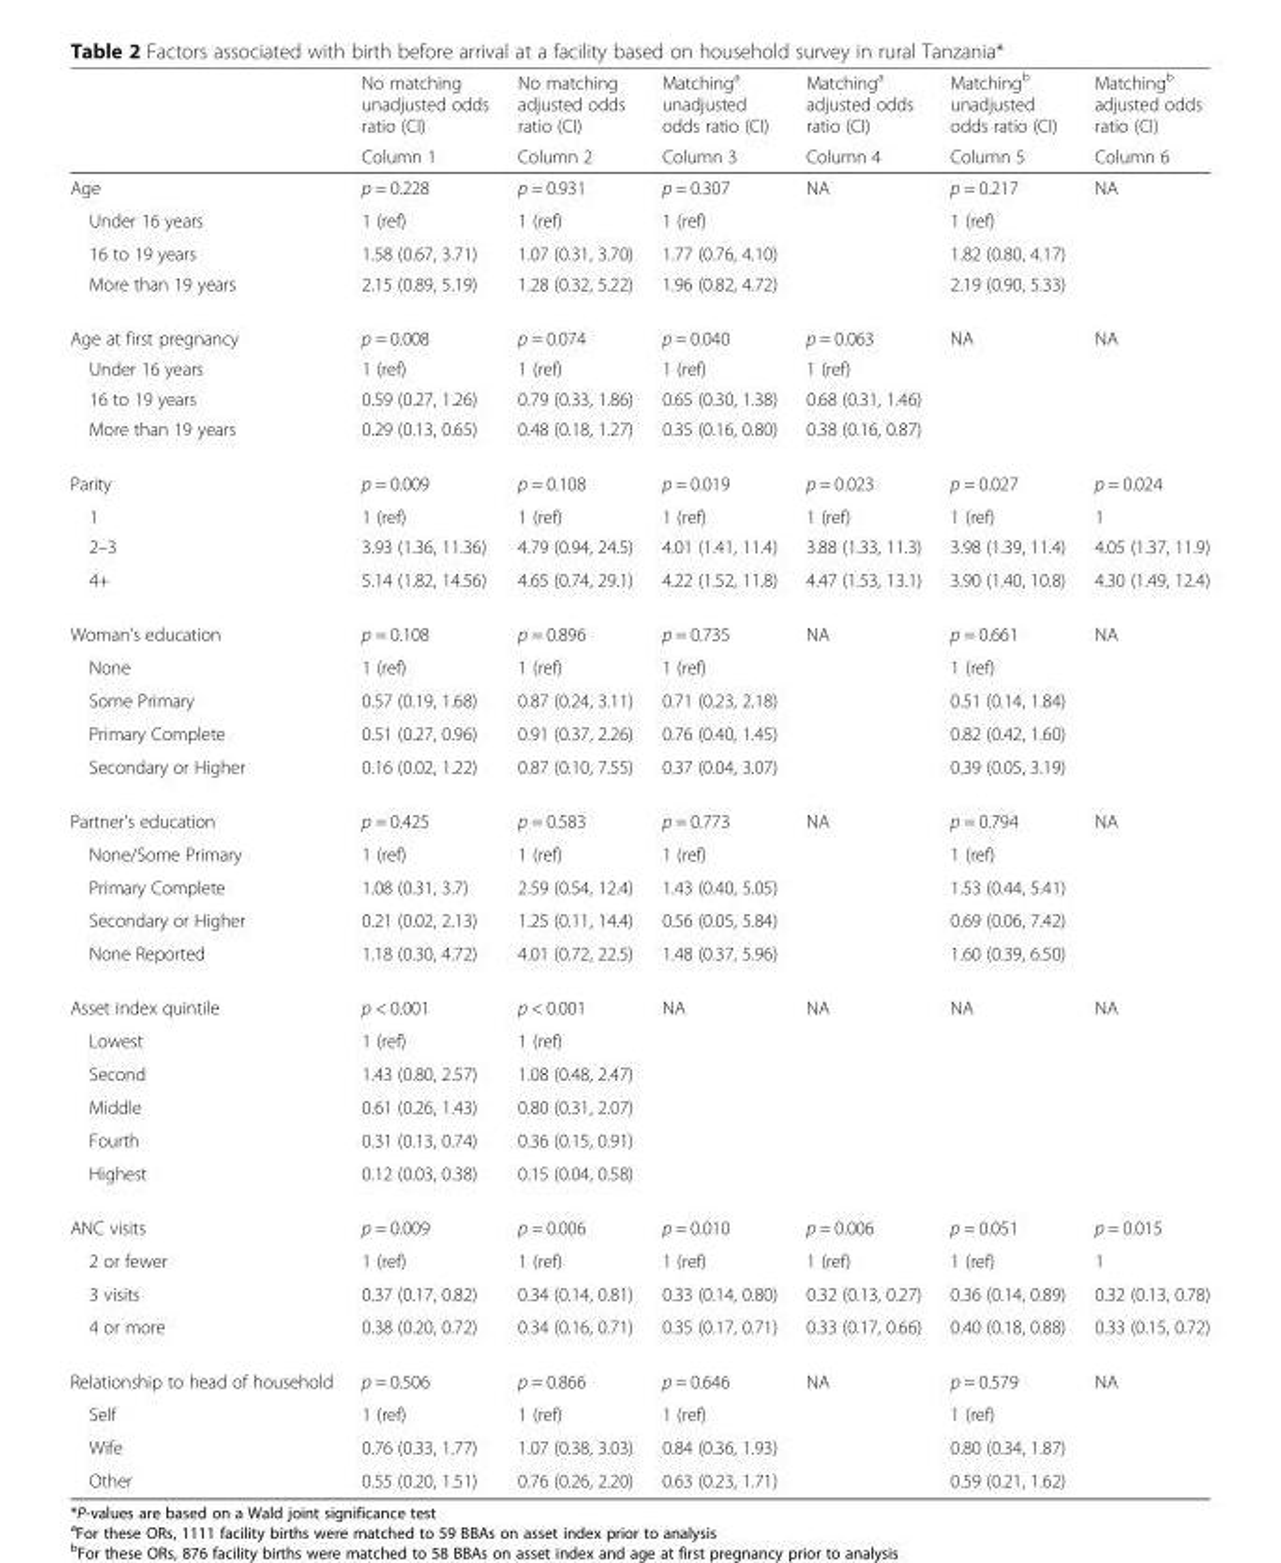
<table><thead><tr><td rowspan="2"></td><td rowspan="2">No matching unadjusted odds ratio (CI) Column 1</td><td rowspan="2">No matching adjusted odds ratio (CI) Column 2</td><td rowspan="2">Matching<sup>a</sup> unadjusted odds ratio (CI) Column 3</td><td rowspan="2">Matching<sup>a</sup> adjusted odds ratio (CI) Column 4</td><td rowspan="2">Matching<sup>b</sup> unadjusted odds ratio (CI) Column 5</td><td rowspan="2">Matching<sup>b</sup> adjusted odds ratio (CI) Column 6</td></tr><tr></tr></thead><tbody><tr><td>Age</td><td>p = 0.228</td><td>p = 0.931</td><td>p = 0.307</td><td>NA</td><td>p = 0.217</td><td>NA</td></tr><tr><td>Under 16 years</td><td>1 (ref)</td><td>1 (ref)</td><td>1 (ref)</td><td></td><td>1 (ref)</td><td></td></tr><tr><td>16 to 19 years</td><td>1.58 (0.67, 3.71)</td><td>1.07 (0.31, 3.70)</td><td>1.77 (0.76, 4.10)</td><td></td><td>1.82 (0.80, 4.17)</td><td></td></tr><tr><td>More than 19 years</td><td>2.15 (0.89, 5.19)</td><td>1.28 (0.32, 5.22)</td><td>1.96 (0.82, 4.72)</td><td></td><td>2.19 (0.90, 5.33)</td><td></td></tr><tr><td>Age at first pregnancy</td><td>p = 0.008</td><td>p = 0.074</td><td>p = 0.040</td><td>p = 0.063</td><td>NA</td><td>NA</td></tr><tr><td>Under 16 years</td><td>1 (ref)</td><td>1 (ref)</td><td>1 (ref)</td><td>1 (ref)</td><td></td><td></td></tr><tr><td>16 to 19 years</td><td>0.59 (0.27, 1.26)</td><td>0.79 (0.33, 1.86)</td><td>0.65 (0.30, 1.38)</td><td>0.68 (0.31, 1.46)</td><td></td><td></td></tr><tr><td>More than 19 years</td><td>0.29 (0.13, 0.65)</td><td>0.48 (0.18, 1.27)</td><td>0.35 (0.16, 0.80)</td><td>0.38 (0.16, 0.87)</td><td></td><td></td></tr><tr><td>Parity</td><td>p = 0.009</td><td>p = 0.108</td><td>p = 0.019</td><td>p = 0.023</td><td>p = 0.027</td><td>p = 0.024</td></tr><tr><td>1</td><td>1 (ref)</td><td>1 (ref)</td><td>1 (ref)</td><td>1 (ref)</td><td>1 (ref)</td><td>1</td></tr><tr><td>2–3</td><td>3.93 (1.36, 11.36)</td><td>4.79 (0.94, 24.5)</td><td>4.01 (1.41, 11.4)</td><td>3.88 (1.33, 11.3)</td><td>3.98 (1.39, 11.4)</td><td>4.05 (1.37, 11.9)</td></tr><tr><td>4+</td><td>5.14 (1.82, 14.56)</td><td>4.65 (0.74, 29.1)</td><td>4.22 (1.52, 11.8)</td><td>4.47 (1.53, 13.1)</td><td>3.90 (1.40, 10.8)</td><td>4.30 (1.49, 12.4)</td></tr><tr><td>Woman&#x27;s education</td><td>p = 0.108</td><td>p = 0.896</td><td>p = 0.735</td><td>NA</td><td>p = 0.661</td><td>NA</td></tr><tr><td>None</td><td>1 (ref)</td><td>1 (ref)</td><td>1 (ref)</td><td></td><td>1 (ref)</td><td></td></tr><tr><td>Some Primary</td><td>0.57 (0.19, 1.68)</td><td>0.87 (0.24, 3.11)</td><td>0.71 (0.23, 2.18)</td><td></td><td>0.51 (0.14, 1.84)</td><td></td></tr><tr><td>Primary Complete</td><td>0.51 (0.27, 0.96)</td><td>0.91 (0.37, 2.26)</td><td>0.76 (0.40, 1.45)</td><td></td><td>0.82 (0.42, 1.60)</td><td></td></tr><tr><td>Secondary or Higher</td><td>0.16 (0.02, 1.22)</td><td>0.87 (0.10, 7.55)</td><td>0.37 (0.04, 3.07)</td><td></td><td>0.39 (0.05, 3.19)</td><td></td></tr><tr><td>Partner&#x27;s education</td><td>p = 0.425</td><td>p = 0.583</td><td>p = 0.773</td><td>NA</td><td>p = 0.794</td><td>NA</td></tr><tr><td>None/Some Primary</td><td>1 (ref)</td><td>1 (ref)</td><td>1 (ref)</td><td></td><td>1 (ref)</td><td></td></tr><tr><td>Primary Complete</td><td>1.08 (0.31, 3.7)</td><td>2.59 (0.54, 12.4)</td><td>1.43 (0.40, 5.05)</td><td></td><td>1.53 (0.44, 5.41)</td><td></td></tr><tr><td>Secondary or Higher</td><td>0.21 (0.02, 2.13)</td><td>1.25 (0.11, 14.4)</td><td>0.56 (0.05, 5.84)</td><td></td><td>0.69 (0.06, 7.42)</td><td></td></tr><tr><td>None Reported</td><td>1.18 (0.30, 4.72)</td><td>4.01 (0.72, 22.5)</td><td>1.48 (0.37, 5.96)</td><td></td><td>1.60 (0.39, 6.50)</td><td></td></tr><tr><td>Asset index quintile</td><td>p &lt; 0.001</td><td>p &lt; 0.001</td><td>NA</td><td>NA</td><td>NA</td><td>NA</td></tr><tr><td>Lowest</td><td>1 (ref)</td><td>1 (ref)</td><td></td><td></td><td></td><td></td></tr><tr><td>Second</td><td>1.43 (0.80, 2.57)</td><td>1.08 (0.48, 2.47)</td><td></td><td></td><td></td><td></td></tr><tr><td>Middle</td><td>0.61 (0.26, 1.43)</td><td>0.80 (0.31, 2.07)</td><td></td><td></td><td></td><td></td></tr><tr><td>Fourth</td><td>0.31 (0.13, 0.74)</td><td>0.36 (0.15, 0.91)</td><td></td><td></td><td></td><td></td></tr><tr><td>Highest</td><td>0.12 (0.03, 0.38)</td><td>0.15 (0.04, 0.58)</td><td></td><td></td><td></td><td></td></tr><tr><td>ANC visits</td><td>p = 0.009</td><td>p = 0.006</td><td>p = 0.010</td><td>p = 0.006</td><td>p = 0.051</td><td>p = 0.015</td></tr><tr><td>2 or fewer</td><td>1 (ref)</td><td>1 (ref)</td><td>1 (ref)</td><td>1 (ref)</td><td>1 (ref)</td><td>1</td></tr><tr><td>3 visits</td><td>0.37 (0.17, 0.82)</td><td>0.34 (0.14, 0.81)</td><td>0.33 (0.14, 0.80)</td><td>0.32 (0.13, 0.27)</td><td>0.36 (0.14, 0.89)</td><td>0.32 (0.13, 0.78)</td></tr><tr><td>4 or more</td><td>0.38 (0.20, 0.72)</td><td>0.34 (0.16, 0.71)</td><td>0.35 (0.17, 0.71)</td><td>0.33 (0.17, 0.66)</td><td>0.40 (0.18, 0.88)</td><td>0.33 (0.15, 0.72)</td></tr><tr><td>Relationship to head of household</td><td>p = 0.506</td><td>p = 0.866</td><td>p = 0.646</td><td>NA</td><td>p = 0.579</td><td>NA</td></tr><tr><td>Self</td><td>1 (ref)</td><td>1 (ref)</td><td>1 (ref)</td><td></td><td>1 (ref)</td><td></td></tr><tr><td>Wife</td><td>0.76 (0.33, 1.77)</td><td>1.07 (0.38, 3.03)</td><td>0.84 (0.36, 1.93)</td><td></td><td>0.80 (0.34, 1.87)</td><td></td></tr><tr><td>Other</td><td>0.55 (0.20, 1.51)</td><td>0.76 (0.26, 2.20)</td><td>0.63 (0.23, 1.71)</td><td></td><td>0.59 (0.21, 1.62)</td><td></td></tr></tbody></table>